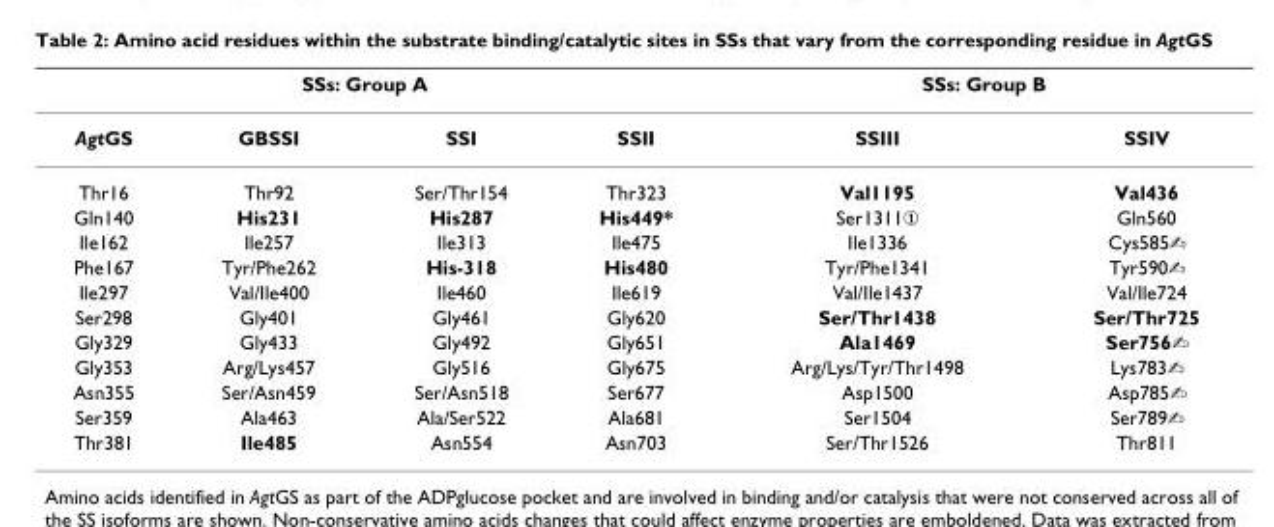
<table><thead><tr><td rowspan="2">AgtGS</td><td colspan="2">SSs: Group A</td><td rowspan="2">SSII</td><td colspan="2">SSs: Group B</td></tr><tr><td>GBSSI</td><td>SSI</td><td>SSIII</td><td>SSIV</td></tr></thead><tbody><tr><td>Thr16</td><td>Thr92</td><td>Ser/Thr154</td><td>Thr323</td><td>Val1195</td><td>Val436</td></tr><tr><td>Gln140</td><td>His231</td><td>His287</td><td>His449*</td><td>Ser1311①</td><td>Gln560</td></tr><tr><td>Ile162</td><td>Ile257</td><td>Ile313</td><td>Ile475</td><td>Ile1336</td><td>Cys585✍</td></tr><tr><td>Phe167</td><td>Tyr/Phe262</td><td>His-318</td><td>His480</td><td>Tyr/Phe1341</td><td>Tyr590✍</td></tr><tr><td>Ile297</td><td>Val/Ile400</td><td>Ile460</td><td>Ile619</td><td>Val/Ile1437</td><td>Val/Ile724</td></tr><tr><td>Ser298</td><td>Gly401</td><td>Gly461</td><td>Gly620</td><td>Ser/Thr1438</td><td>Ser/Thr725</td></tr><tr><td>Gly329</td><td>Gly433</td><td>Gly492</td><td>Gly651</td><td>Ala1469</td><td>Ser756✍</td></tr><tr><td>Gly353</td><td>Arg/Lys457</td><td>Gly516</td><td>Gly675</td><td>Arg/Lys/Tyr/Thr1498</td><td>Lys783✍</td></tr><tr><td>Asn355</td><td>Ser/Asn459</td><td>Ser/Asn518</td><td>Ser677</td><td>Asp1500</td><td>Asp785✍</td></tr><tr><td>Ser359</td><td>Ala463</td><td>Ala/Ser522</td><td>Ala681</td><td>Ser1504</td><td>Ser789✍</td></tr><tr><td>Thr381</td><td>Ile485</td><td>Asn554</td><td>Asn703</td><td>Ser/Thr1526</td><td>Thr811</td></tr></tbody></table>